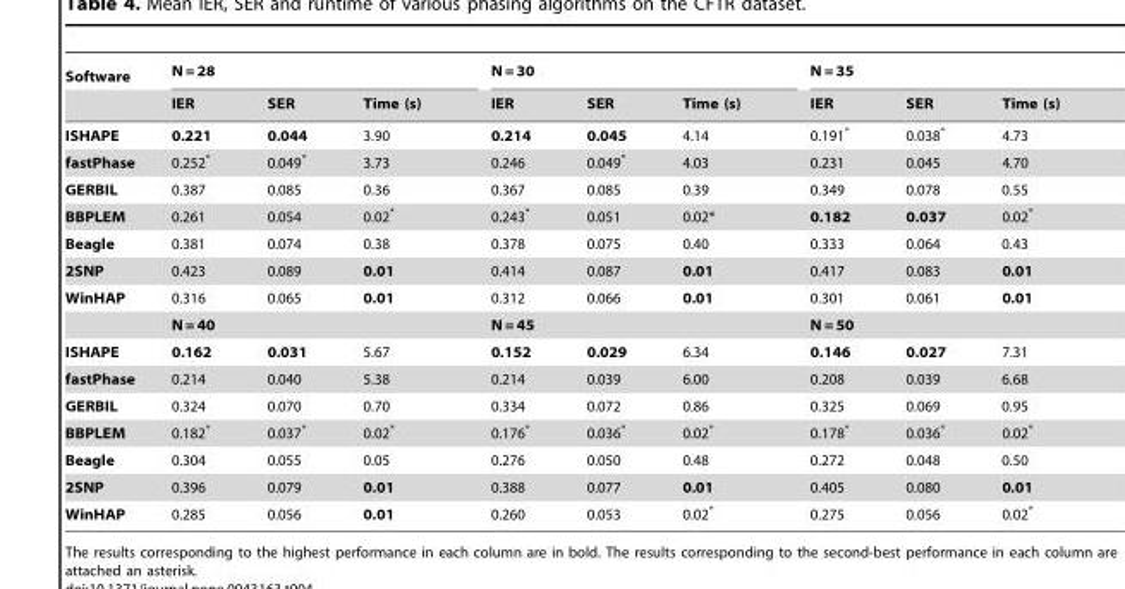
<table><thead><tr><td rowspan="2">Software</td><td colspan="3">N = 28</td><td colspan="3">N = 30</td><td colspan="3">N = 35</td></tr><tr><td>IER</td><td>SER</td><td>Time (s)</td><td>IER</td><td>SER</td><td>Time (s)</td><td>IER</td><td>SER</td><td>Time (s)</td></tr></thead><tbody><tr><td>ISHAPE</td><td>0.221</td><td>0.044</td><td>3.90</td><td>0.214</td><td>0.045</td><td>4.14</td><td>0.191*</td><td>0.038*</td><td>4.73</td></tr><tr><td>fastPhase</td><td>0.252*</td><td>0.049*</td><td>3.73</td><td>0.246</td><td>0.049*</td><td>4.03</td><td>0.231</td><td>0.045</td><td>4.70</td></tr><tr><td>GERBIL</td><td>0.387</td><td>0.085</td><td>0.36</td><td>0.367</td><td>0.085</td><td>0.39</td><td>0.349</td><td>0.078</td><td>0.55</td></tr><tr><td>BBPLEM</td><td>0.261</td><td>0.054</td><td>0.02*</td><td>0.243*</td><td>0.051</td><td>0.02*</td><td>0.182</td><td>0.037</td><td>0.02*</td></tr><tr><td>Beagle</td><td>0.381</td><td>0.074</td><td>0.38</td><td>0.378</td><td>0.075</td><td>0.40</td><td>0.333</td><td>0.064</td><td>0.43</td></tr><tr><td>2SNP</td><td>0.423</td><td>0.089</td><td>0.01</td><td>0.414</td><td>0.087</td><td>0.01</td><td>0.417</td><td>0.083</td><td>0.01</td></tr><tr><td rowspan="2">WinHAP</td><td>0.316</td><td>0.065</td><td>0.01</td><td>0.312</td><td>0.066</td><td>0.01</td><td>0.301</td><td>0.061</td><td>0.01</td></tr><tr><td colspan="3">N = 40</td><td colspan="3">N = 45</td><td colspan="3">N = 50</td></tr><tr><td>ISHAPE</td><td>0.162</td><td>0.031</td><td>5.67</td><td>0.152</td><td>0.029</td><td>6.34</td><td>0.146</td><td>0.027</td><td>7.31</td></tr><tr><td>fastPhase</td><td>0.214</td><td>0.040</td><td>5.38</td><td>0.214</td><td>0.039</td><td>6.00</td><td>0.208</td><td>0.039</td><td>6.68</td></tr><tr><td>GERBIL</td><td>0.324</td><td>0.070</td><td>0.70</td><td>0.334</td><td>0.072</td><td>0.86</td><td>0.325</td><td>0.069</td><td>0.95</td></tr><tr><td>BBPLEM</td><td>0.182*</td><td>0.037*</td><td>0.02*</td><td>0.176*</td><td>0.036*</td><td>0.02*</td><td>0.178*</td><td>0.036*</td><td>0.02*</td></tr><tr><td>Beagle</td><td>0.304</td><td>0.055</td><td>0.05</td><td>0.276</td><td>0.050</td><td>0.48</td><td>0.272</td><td>0.048</td><td>0.50</td></tr><tr><td>2SNP</td><td>0.396</td><td>0.079</td><td>0.01</td><td>0.388</td><td>0.077</td><td>0.01</td><td>0.405</td><td>0.080</td><td>0.01</td></tr><tr><td>WinHAP</td><td>0.285</td><td>0.056</td><td>0.01</td><td>0.260</td><td>0.053</td><td>0.02*</td><td>0.275</td><td>0.056</td><td>0.02*</td></tr></tbody></table>